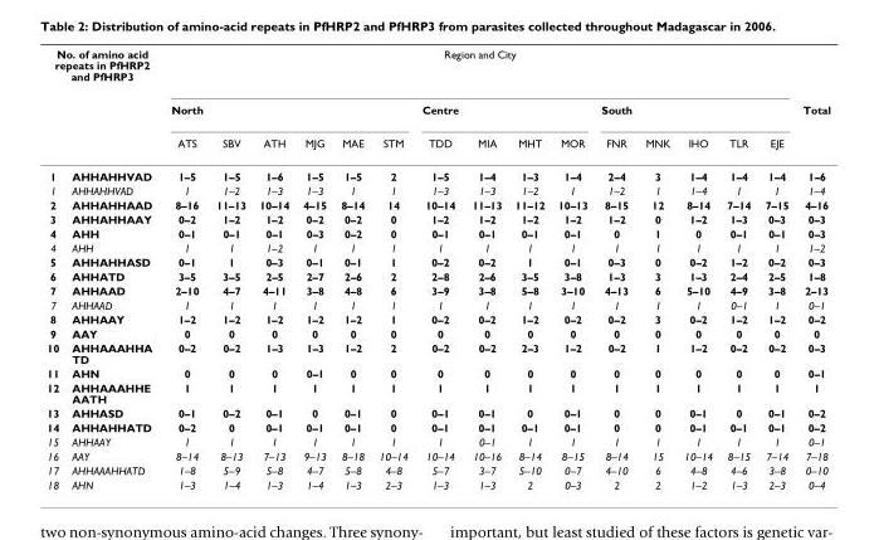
<table><thead><tr><td colspan="2">No. of amino acid repeats in PfHRP2 and PfHRP3</td><td colspan="15">Region and City</td><td rowspan="3">Total</td></tr><tr><td rowspan="2"></td><td rowspan="2"></td><td rowspan="2">North ATS</td><td rowspan="2">SBV</td><td rowspan="2">ATH</td><td rowspan="2">MJG</td><td rowspan="2">MAE</td><td rowspan="2">STM</td><td rowspan="2">Centre TDD</td><td rowspan="2">MIA</td><td rowspan="2">MHT</td><td rowspan="2">MOR</td><td rowspan="2">South FNR</td><td rowspan="2">MNK</td><td rowspan="2">IHO</td><td rowspan="2">TLR</td><td rowspan="2">EJE</td></tr><tr></tr></thead><tbody><tr><td>1</td><td>AHHAHHVAD</td><td>1–5</td><td>1–5</td><td>1–6</td><td>1–5</td><td>1–5</td><td>2</td><td>1–5</td><td>1–4</td><td>1–3</td><td>1–4</td><td>2–4</td><td>3</td><td>1–4</td><td>1–4</td><td>1–4</td><td>1–6</td></tr><tr><td>1</td><td>AHHAHHVAD</td><td>1</td><td>1–2</td><td>1–3</td><td>1–3</td><td>1</td><td>1</td><td>1–3</td><td>1–3</td><td>1–2</td><td>1</td><td>1–2</td><td>1</td><td>1–4</td><td>1</td><td>1</td><td>1–4</td></tr><tr><td>2</td><td>AHHAHHAAD</td><td>8–16</td><td>11–13</td><td>10–14</td><td>4–15</td><td>8–14</td><td>14</td><td>10–14</td><td>11–13</td><td>11–12</td><td>10–13</td><td>8–15</td><td>12</td><td>8–14</td><td>7–14</td><td>7–15</td><td>4–16</td></tr><tr><td>3</td><td>AHHAHHAAY</td><td>0–2</td><td>1–2</td><td>1–2</td><td>0–2</td><td>0–2</td><td>0</td><td>1–2</td><td>1–2</td><td>1–2</td><td>1–2</td><td>1–2</td><td>0</td><td>1–2</td><td>1–3</td><td>0–3</td><td>0–3</td></tr><tr><td>4</td><td>AHH</td><td>0–1</td><td>0–1</td><td>0–1</td><td>0–3</td><td>0–2</td><td>0</td><td>0–1</td><td>0–1</td><td>0–1</td><td>0–1</td><td>0</td><td>1</td><td>0</td><td>0–1</td><td>0–1</td><td>0–3</td></tr><tr><td>4</td><td>AHH</td><td>1</td><td>1</td><td>1–2</td><td>1</td><td>1</td><td>1</td><td>1</td><td>1</td><td>1</td><td>1</td><td>1</td><td>1</td><td>1</td><td>1</td><td>1</td><td>1–2</td></tr><tr><td>5</td><td>AHHAHHASD</td><td>0–1</td><td>1</td><td>0–3</td><td>0–1</td><td>0–1</td><td>1</td><td>0–2</td><td>0–2</td><td>1</td><td>0–1</td><td>0–3</td><td>0</td><td>0–2</td><td>1–2</td><td>0–2</td><td>0–3</td></tr><tr><td>6</td><td>AHHATD</td><td>3–5</td><td>3–5</td><td>2–5</td><td>2–7</td><td>2–6</td><td>2</td><td>2–8</td><td>2–6</td><td>3–5</td><td>3–8</td><td>1–3</td><td>3</td><td>1–3</td><td>2–4</td><td>2–5</td><td>1–8</td></tr><tr><td>7</td><td>AHHAAD</td><td>2–10</td><td>4–7</td><td>4–11</td><td>3–8</td><td>4–8</td><td>6</td><td>3–9</td><td>3–8</td><td>5–8</td><td>3–10</td><td>4–13</td><td>6</td><td>5–10</td><td>4–9</td><td>3–8</td><td>2–13</td></tr><tr><td>7</td><td>AHHAAD</td><td>1</td><td>1</td><td>1</td><td>1</td><td>1</td><td>1</td><td>1</td><td>1</td><td>1</td><td>1</td><td>1</td><td>1</td><td>1</td><td>0–1</td><td>1</td><td>0–1</td></tr><tr><td>8</td><td>AHHAAY</td><td>1–2</td><td>1–2</td><td>1–2</td><td>1–2</td><td>1–2</td><td>1</td><td>0–2</td><td>0–2</td><td>1–2</td><td>0–2</td><td>0–2</td><td>3</td><td>0–2</td><td>1–2</td><td>1–2</td><td>0–2</td></tr><tr><td>9</td><td>AAY</td><td>0</td><td>0</td><td>0</td><td>0</td><td>0</td><td>0</td><td>0</td><td>0</td><td>0</td><td>0</td><td>0</td><td>0</td><td>0</td><td>0</td><td>0</td><td>0</td></tr><tr><td>10</td><td>AHHAAAHHA TD</td><td>0–2</td><td>0–2</td><td>1–3</td><td>1–3</td><td>1–2</td><td>2</td><td>0–2</td><td>0–2</td><td>2–3</td><td>1–2</td><td>0–2</td><td>1</td><td>1–2</td><td>0–2</td><td>0–2</td><td>0–3</td></tr><tr><td>11</td><td>AHN</td><td>0</td><td>0</td><td>0</td><td>0–1</td><td>0</td><td>0</td><td>0</td><td>0</td><td>0</td><td>0</td><td>0</td><td>0</td><td>0</td><td>0</td><td>0</td><td>0–1</td></tr><tr><td>12</td><td>AHHAAAHHE AATH</td><td>1</td><td>1</td><td>1</td><td>1</td><td>1</td><td>1</td><td>1</td><td>1</td><td>1</td><td>1</td><td>1</td><td>1</td><td>1</td><td>1</td><td>1</td><td>1</td></tr><tr><td>13</td><td>AHHASD</td><td>0–1</td><td>0–2</td><td>0–1</td><td>0</td><td>0–1</td><td>0</td><td>0–1</td><td>0–1</td><td>0</td><td>0–1</td><td>0</td><td>0</td><td>0–1</td><td>0</td><td>0–1</td><td>0–2</td></tr><tr><td>14</td><td>AHHAHHATD</td><td>0–2</td><td>0</td><td>0–1</td><td>0–1</td><td>0–1</td><td>0</td><td>0–1</td><td>0–1</td><td>0–1</td><td>0–1</td><td>0</td><td>0</td><td>0–1</td><td>0–1</td><td>0–1</td><td>0–2</td></tr><tr><td>15</td><td>AHHAAY</td><td>1</td><td>1</td><td>1</td><td>1</td><td>1</td><td>1</td><td>1</td><td>0–1</td><td>1</td><td>1</td><td>1</td><td>1</td><td>1</td><td>1</td><td>1</td><td>0–1</td></tr><tr><td>16</td><td>AAY</td><td>8–14</td><td>8–13</td><td>7–13</td><td>9–13</td><td>8–18</td><td>10–14</td><td>10–14</td><td>10–16</td><td>8–14</td><td>8–15</td><td>8–14</td><td>15</td><td>10–14</td><td>8–15</td><td>7–14</td><td>7–18</td></tr><tr><td>17</td><td>AHHAAAHHATD</td><td>1–8</td><td>5–9</td><td>5–8</td><td>4–7</td><td>5–8</td><td>4–8</td><td>5–7</td><td>3–7</td><td>5–10</td><td>0–7</td><td>4–10</td><td>6</td><td>4–8</td><td>4–6</td><td>3–8</td><td>0–10</td></tr><tr><td>18</td><td>AHN</td><td>1–3</td><td>1–4</td><td>1–3</td><td>1–4</td><td>1–3</td><td>2–3</td><td>1–3</td><td>1–3</td><td>2</td><td>0–3</td><td>2</td><td>2</td><td>1–2</td><td>1–3</td><td>2–3</td><td>0–4</td></tr></tbody></table>